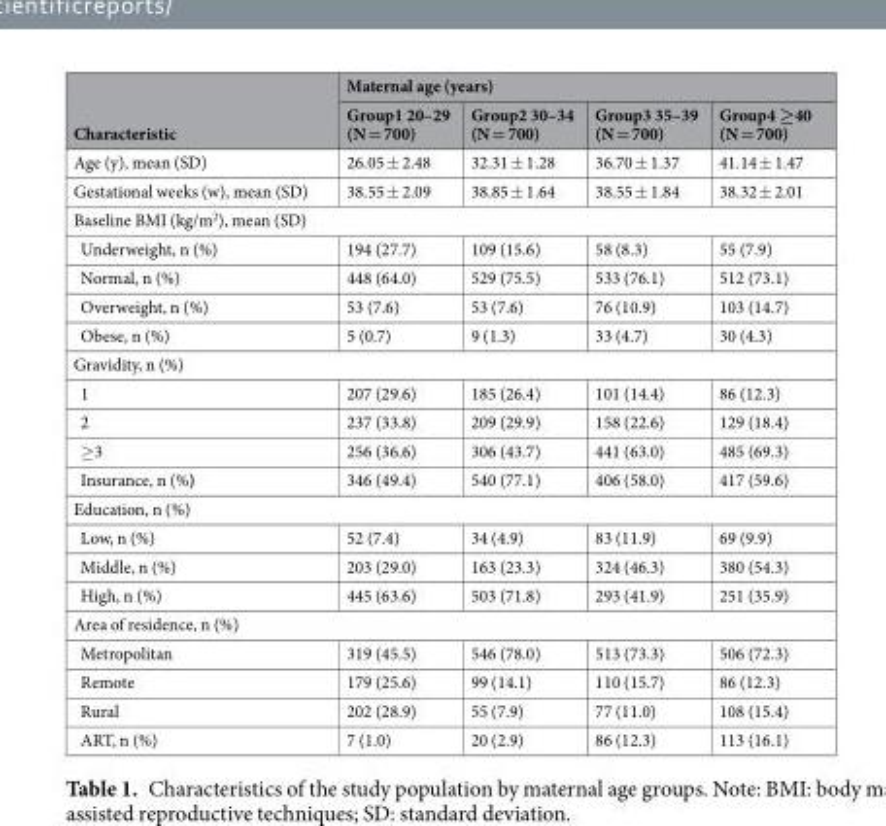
<table><thead><tr><td rowspan="2">Characteristic</td><td colspan="4">Maternal age (years)</td></tr><tr><td>Group1 20–29 (N = 700)</td><td>Group2 30–34 (N = 700)</td><td>Group3 35–39 (N = 700)</td><td>Group4 ≥40 (N = 700)</td></tr></thead><tbody><tr><td>Age (y), mean (SD)</td><td>26.05 ± 2.48</td><td>32.31 ± 1.28</td><td>36.70 ± 1.37</td><td>41.14 ± 1.47</td></tr><tr><td>Gestational weeks (w), mean (SD)</td><td>38.55 ± 2.09</td><td>38.85 ± 1.64</td><td>38.55 ± 1.84</td><td>38.32 ± 2.01</td></tr><tr><td colspan="5">Baseline BMI (kg/m<sup>2</sup>), mean (SD)</td></tr><tr><td>Underweight, n (%)</td><td>194 (27.7)</td><td>109 (15.6)</td><td>58 (8.3)</td><td>55 (7.9)</td></tr><tr><td>Normal, n (%)</td><td>448 (64.0)</td><td>529 (75.5)</td><td>533 (76.1)</td><td>512 (73.1)</td></tr><tr><td>Overweight, n (%)</td><td>53 (7.6)</td><td>53 (7.6)</td><td>76 (10.9)</td><td>103 (14.7)</td></tr><tr><td>Obese, n (%)</td><td>5 (0.7)</td><td>9 (1.3)</td><td>33 (4.7)</td><td>30 (4.3)</td></tr><tr><td colspan="5">Gravidity, n (%)</td></tr><tr><td>1</td><td>207 (29.6)</td><td>185 (26.4)</td><td>101 (14.4)</td><td>86 (12.3)</td></tr><tr><td>2</td><td>237 (33.8)</td><td>209 (29.9)</td><td>158 (22.6)</td><td>129 (18.4)</td></tr><tr><td>≥3</td><td>256 (36.6)</td><td>306 (43.7)</td><td>441 (63.0)</td><td>485 (69.3)</td></tr><tr><td>Insurance, n (%)</td><td>346 (49.4)</td><td>540 (77.1)</td><td>406 (58.0)</td><td>417 (59.6)</td></tr><tr><td colspan="5">Education, n (%)</td></tr><tr><td>Low, n (%)</td><td>52 (7.4)</td><td>34 (4.9)</td><td>83 (11.9)</td><td>69 (9.9)</td></tr><tr><td>Middle, n (%)</td><td>203 (29.0)</td><td>163 (23.3)</td><td>324 (46.3)</td><td>380 (54.3)</td></tr><tr><td>High, n (%)</td><td>445 (63.6)</td><td>503 (71.8)</td><td>293 (41.9)</td><td>251 (35.9)</td></tr><tr><td colspan="5">Area of residence, n (%)</td></tr><tr><td>Metropolitan</td><td>319 (45.5)</td><td>546 (78.0)</td><td>513 (73.3)</td><td>506 (72.3)</td></tr><tr><td>Remote</td><td>179 (25.6)</td><td>99 (14.1)</td><td>110 (15.7)</td><td>86 (12.3)</td></tr><tr><td>Rural</td><td>202 (28.9)</td><td>55 (7.9)</td><td>77 (11.0)</td><td>108 (15.4)</td></tr><tr><td>ART, n (%)</td><td>7 (1.0)</td><td>20 (2.9)</td><td>86 (12.3)</td><td>113 (16.1)</td></tr></tbody></table>